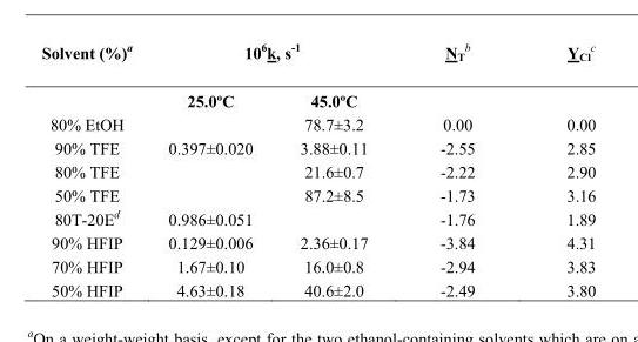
<table><thead><tr><td rowspan="2">Solvent (%)a</td><td colspan="2">10<sup>6</sup>k, s<sup>-1</sup></td><td rowspan="2">N<sub>T</sub> b</td><td rowspan="2">Y<sub>Cl</sub> c</td></tr><tr><td>25.0ºC</td><td>45.0ºC</td></tr></thead><tbody><tr><td>80% EtOH</td><td></td><td>78.7±3.2</td><td>0.00</td><td>0.00</td></tr><tr><td>90% TFE</td><td>0.397±0.020</td><td>3.88±0.11</td><td>-2.55</td><td>2.85</td></tr><tr><td>80% TFE</td><td></td><td>21.6±0.7</td><td>-2.22</td><td>2.90</td></tr><tr><td>50% TFE</td><td></td><td>87.2±8.5</td><td>-1.73</td><td>3.16</td></tr><tr><td>80T-20Ed</td><td>0.986±0.051</td><td></td><td>-1.76</td><td>1.89</td></tr><tr><td>90% HFIP</td><td>0.129±0.006</td><td>2.36±0.17</td><td>-3.84</td><td>4.31</td></tr><tr><td>70% HFIP</td><td>1.67±0.10</td><td>16.0±0.8</td><td>-2.94</td><td>3.83</td></tr><tr><td>50% HFIP</td><td>4.63±0.18</td><td>40.6±2.0</td><td>-2.49</td><td>3.80</td></tr></tbody></table>